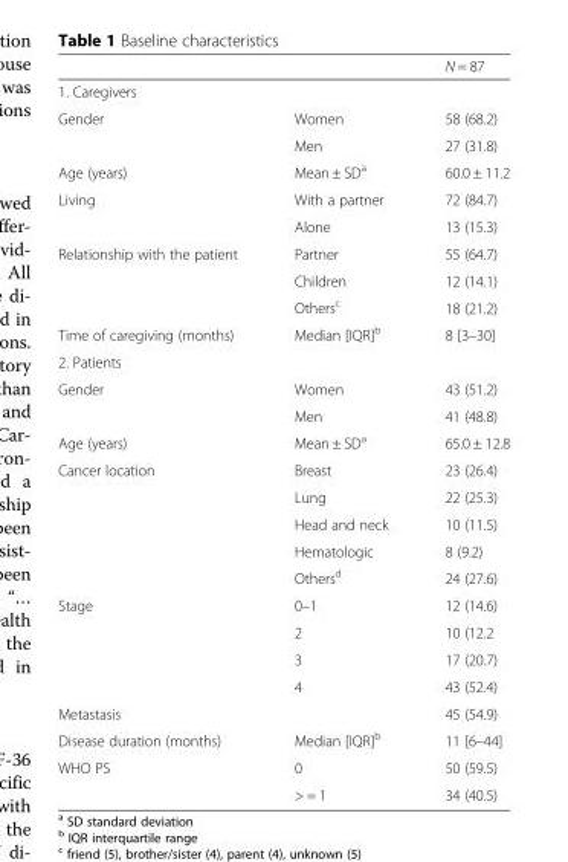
<table><thead><tr><td></td><td></td><td>N = 87</td></tr></thead><tbody><tr><td colspan="3">1. Caregivers</td></tr><tr><td rowspan="2">Gender</td><td>Women</td><td>58 (68.2)</td></tr><tr><td>Men</td><td>27 (31.8)</td></tr><tr><td>Age (years)</td><td>Mean ± SD<sup>a</sup></td><td>60.0 ± 11.2</td></tr><tr><td rowspan="2">Living</td><td>With a partner</td><td>72 (84.7)</td></tr><tr><td>Alone</td><td>13 (15.3)</td></tr><tr><td rowspan="3">Relationship with the patient</td><td>Partner</td><td>55 (64.7)</td></tr><tr><td>Children</td><td>12 (14.1)</td></tr><tr><td>Others<sup>c</sup></td><td>18 (21.2)</td></tr><tr><td>Time of caregiving (months)</td><td>Median [IQR]<sup>b</sup></td><td>8 [3–30]</td></tr><tr><td colspan="3">2. Patients</td></tr><tr><td rowspan="2">Gender</td><td>Women</td><td>43 (51.2)</td></tr><tr><td>Men</td><td>41 (48.8)</td></tr><tr><td>Age (years)</td><td>Mean ± SD<sup>a</sup></td><td>65.0 ± 12.8</td></tr><tr><td rowspan="5">Cancer location</td><td>Breast</td><td>23 (26.4)</td></tr><tr><td>Lung</td><td>22 (25.3)</td></tr><tr><td>Head and neck</td><td>10 (11.5)</td></tr><tr><td>Hematologic</td><td>8 (9.2)</td></tr><tr><td>Others<sup>d</sup></td><td>24 (27.6)</td></tr><tr><td rowspan="4">Stage</td><td>0–1</td><td>12 (14.6)</td></tr><tr><td>2</td><td>10 (12.2</td></tr><tr><td>3</td><td>17 (20.7)</td></tr><tr><td>4</td><td>43 (52.4)</td></tr><tr><td>Metastasis</td><td></td><td>45 (54.9)</td></tr><tr><td>Disease duration (months)</td><td>Median [IQR]<sup>b</sup></td><td>11 [6–44]</td></tr><tr><td rowspan="2">WHO PS</td><td>0</td><td>50 (59.5)</td></tr><tr><td>&gt; = 1</td><td>34 (40.5)</td></tr></tbody></table>